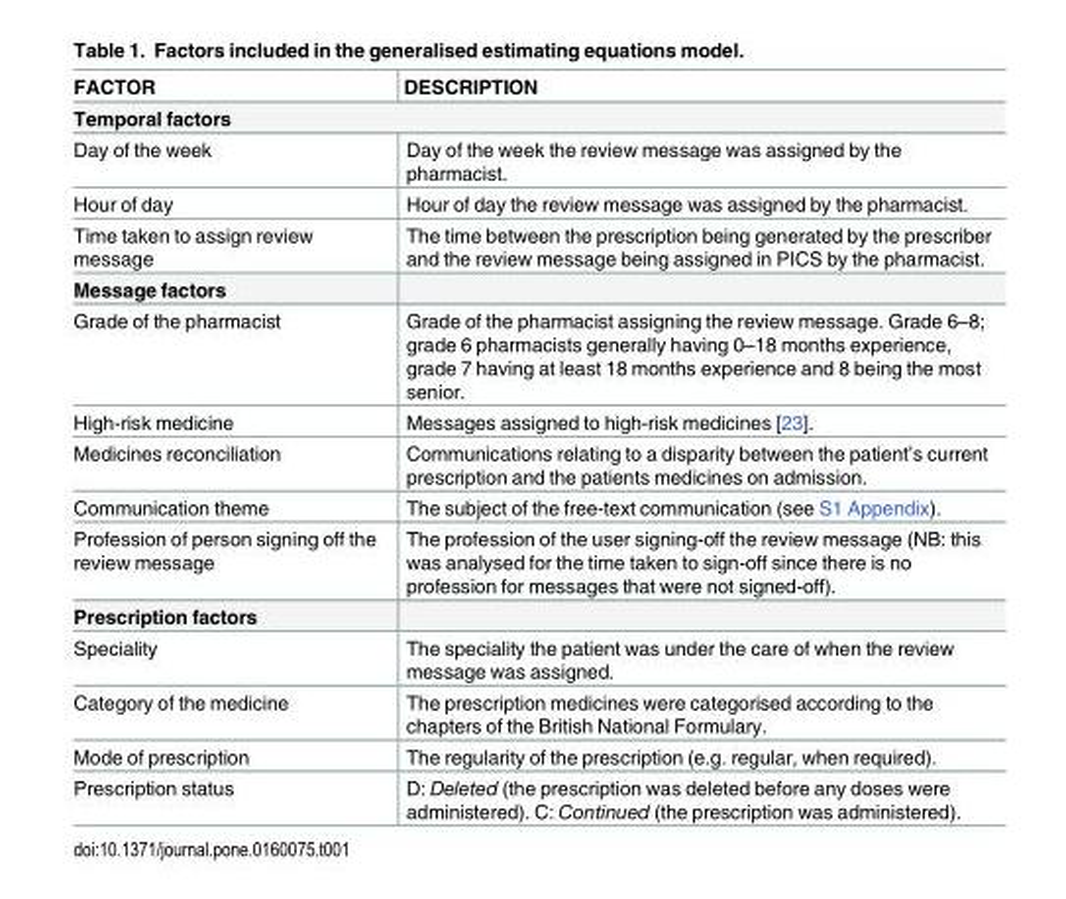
<table><thead><tr><td>FACTOR</td><td>DESCRIPTION</td></tr></thead><tbody><tr><td colspan="2">Temporal factors</td></tr><tr><td>Day of the week</td><td>Day of the week the review message was assigned by the pharmacist.</td></tr><tr><td>Hour of day</td><td>Hour of day the review message was assigned by the pharmacist.</td></tr><tr><td>Time taken to assign review message</td><td>The time between the prescription being generated by the prescriber and the review message being assigned in PICS by the pharmacist.</td></tr><tr><td colspan="2">Message factors</td></tr><tr><td>Grade of the pharmacist</td><td>Grade of the pharmacist assigning the review message. Grade 6–8; grade 6 pharmacists generally having 0–18 months experience, grade 7 having at least 18 months experience and 8 being the most senior.</td></tr><tr><td>High-risk medicine</td><td>Messages assigned to high-risk medicines [23].</td></tr><tr><td>Medicines reconciliation</td><td>Communications relating to a disparity between the patient’s current prescription and the patients medicines on admission.</td></tr><tr><td>Communication theme</td><td>The subject of the free-text communication (see S1 Appendix).</td></tr><tr><td>Profession of person signing off the review message</td><td>The profession of the user signing-off the review message (NB: this was analysed for the time taken to sign-off since there is no profession for messages that were not signed-off).</td></tr><tr><td colspan="2">Prescription factors</td></tr><tr><td>Speciality</td><td>The speciality the patient was under the care of when the review message was assigned.</td></tr><tr><td>Category of the medicine</td><td>The prescription medicines were categorised according to the chapters of the British National Formulary.</td></tr><tr><td>Mode of prescription</td><td>The regularity of the prescription (e.g. regular, when required).</td></tr><tr><td>Prescription status</td><td>D: Deleted (the prescription was deleted before any doses were administered). C: Continued (the prescription was administered).</td></tr></tbody></table>